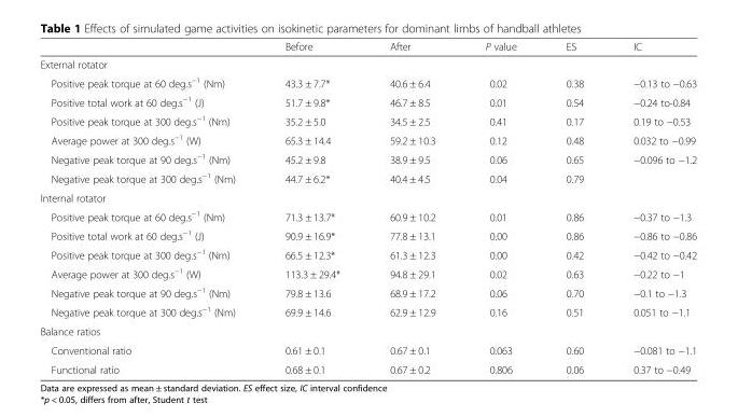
<table><thead><tr><td></td><td>Before</td><td>After</td><td>P value</td><td>ES</td><td>IC</td></tr></thead><tbody><tr><td colspan="6">External rotator</td></tr><tr><td>Positive peak torque at 60 deg.s<sup>−1</sup> (Nm)</td><td>43.3 ± 7.7*</td><td>40.6 ± 6.4</td><td>0.02</td><td>0.38</td><td>−0.13 to −0.63</td></tr><tr><td>Positive total work at 60 deg.s<sup>−1</sup> (J)</td><td>51.7 ± 9.8*</td><td>46.7 ± 8.5</td><td>0.01</td><td>0.54</td><td>−0.24 to-0.84</td></tr><tr><td>Positive peak torque at 300 deg.s<sup>−1</sup> (Nm)</td><td>35.2 ± 5.0</td><td>34.5 ± 2.5</td><td>0.41</td><td>0.17</td><td>0.19 to −0.53</td></tr><tr><td>Average power at 300 deg.s<sup>−1</sup> (W)</td><td>65.3 ± 14.4</td><td>59.2 ± 10.3</td><td>0.12</td><td>0.48</td><td>0.032 to −0.99</td></tr><tr><td>Negative peak torque at 90 deg.s<sup>−1</sup> (Nm)</td><td>45.2 ± 9.8</td><td>38.9 ± 9.5</td><td>0.06</td><td>0.65</td><td>−0.096 to −1.2</td></tr><tr><td>Negative peak torque at 300 deg.s<sup>−1</sup> (Nm)</td><td>44.7 ± 6.2*</td><td>40.4 ± 4.5</td><td>0.04</td><td>0.79</td><td></td></tr><tr><td colspan="6">Internal rotator</td></tr><tr><td>Positive peak torque at 60 deg.s<sup>−1</sup> (Nm)</td><td>71.3 ± 13.7*</td><td>60.9 ± 10.2</td><td>0.01</td><td>0.86</td><td>−0.37 to −1.3</td></tr><tr><td>Positive total work at 60 deg.s<sup>−1</sup> (J)</td><td>90.9 ± 16.9*</td><td>77.8 ± 13.1</td><td>0.00</td><td>0.86</td><td>−0.86 to −0.86</td></tr><tr><td>Positive peak torque at 300 deg.s<sup>−1</sup> (Nm)</td><td>66.5 ± 12.3*</td><td>61.3 ± 12.3</td><td>0.00</td><td>0.42</td><td>−0.42 to −0.42</td></tr><tr><td>Average power at 300 deg.s<sup>−1</sup> (W)</td><td>113.3 ± 29.4*</td><td>94.8 ± 29.1</td><td>0.02</td><td>0.63</td><td>−0.22 to −1</td></tr><tr><td>Negative peak torque at 90 deg.s<sup>−1</sup> (Nm)</td><td>79.8 ± 13.6</td><td>68.9 ± 17.2</td><td>0.06</td><td>0.70</td><td>−0.1 to −1.3</td></tr><tr><td>Negative peak torque at 300 deg.s<sup>−1</sup> (Nm)</td><td>69.9 ± 14.6</td><td>62.9 ± 12.9</td><td>0.16</td><td>0.51</td><td>0.051 to −1.1</td></tr><tr><td colspan="6">Balance ratios</td></tr><tr><td>Conventional ratio</td><td>0.61 ± 0.1</td><td>0.67 ± 0.1</td><td>0.063</td><td>0.60</td><td>−0.081 to −1.1</td></tr><tr><td>Functional ratio</td><td>0.68 ± 0.1</td><td>0.67 ± 0.2</td><td>0.806</td><td>0.06</td><td>0.37 to −0.49</td></tr></tbody></table>